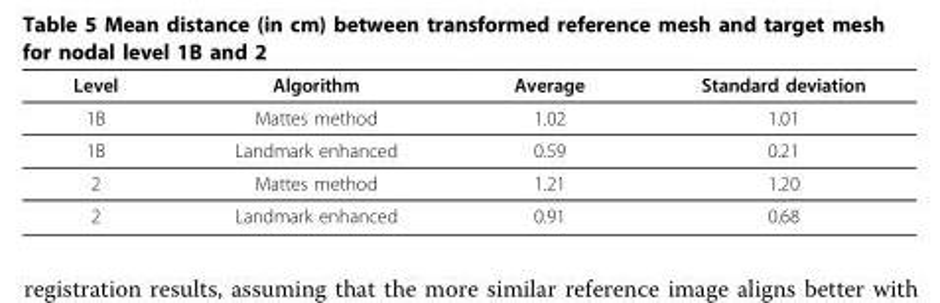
<table><thead><tr><td>Level</td><td>Algorithm</td><td>Average</td><td>Standard deviation</td></tr></thead><tbody><tr><td>1B</td><td>Mattes method</td><td>1.02</td><td>1.01</td></tr><tr><td>1B</td><td>Landmark enhanced</td><td>0.59</td><td>0.21</td></tr><tr><td>2</td><td>Mattes method</td><td>1.21</td><td>1.20</td></tr><tr><td>2</td><td>Landmark enhanced</td><td>0.91</td><td>0.68</td></tr></tbody></table>